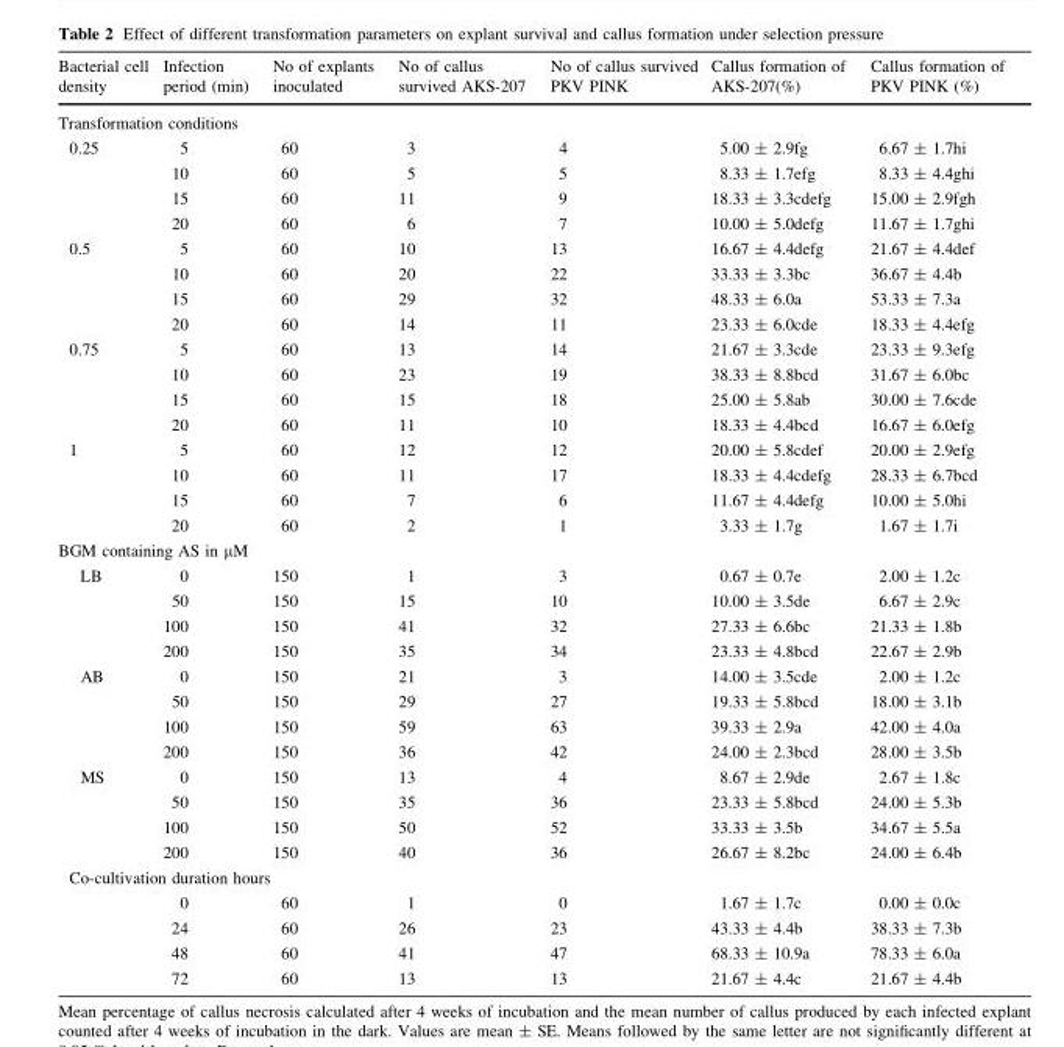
<table><thead><tr><td>Bacterial cell density</td><td>Infection period (min)</td><td>No of explants inoculated</td><td>No of callus survived AKS-207</td><td>No of callus survived PKV PINK</td><td>Callus formation of AKS-207(%)</td><td>Callus formation of PKV PINK (%)</td></tr></thead><tbody><tr><td colspan="7">Transformation conditions</td></tr><tr><td rowspan="4">0.25</td><td>5</td><td>60</td><td>3</td><td>4</td><td>5.00 ± 2.9fg</td><td>6.67 ± 1.7hi</td></tr><tr><td>10</td><td>60</td><td>5</td><td>5</td><td>8.33 ± 1.7efg</td><td>8.33 ± 4.4ghi</td></tr><tr><td>15</td><td>60</td><td>11</td><td>9</td><td>18.33 ± 3.3cdefg</td><td>15.00 ± 2.9fgh</td></tr><tr><td>20</td><td>60</td><td>6</td><td>7</td><td>10.00 ± 5.0defg</td><td>11.67 ± 1.7ghi</td></tr><tr><td rowspan="4">0.5</td><td>5</td><td>60</td><td>10</td><td>13</td><td>16.67 ± 4.4defg</td><td>21.67 ± 4.4def</td></tr><tr><td>10</td><td>60</td><td>20</td><td>22</td><td>33.33 ± 3.3bc</td><td>36.67 ± 4.4b</td></tr><tr><td>15</td><td>60</td><td>29</td><td>32</td><td>48.33 ± 6.0a</td><td>53.33 ± 7.3a</td></tr><tr><td>20</td><td>60</td><td>14</td><td>11</td><td>23.33 ± 6.0cde</td><td>18.33 ± 4.4efg</td></tr><tr><td rowspan="4">0.75</td><td>5</td><td>60</td><td>13</td><td>14</td><td>21.67 ± 3.3cde</td><td>23.33 ± 9.3efg</td></tr><tr><td>10</td><td>60</td><td>23</td><td>19</td><td>38.33 ± 8.8bcd</td><td>31.67 ± 6.0bc</td></tr><tr><td>15</td><td>60</td><td>15</td><td>18</td><td>25.00 ± 5.8ab</td><td>30.00 ± 7.6cde</td></tr><tr><td>20</td><td>60</td><td>11</td><td>10</td><td>18.33 ± 4.4bcd</td><td>16.67 ± 6.0efg</td></tr><tr><td rowspan="4">1</td><td>5</td><td>60</td><td>12</td><td>12</td><td>20.00 ± 5.8cdef</td><td>20.00 ± 2.9efg</td></tr><tr><td>10</td><td>60</td><td>11</td><td>17</td><td>18.33 ± 4.4cdefg</td><td>28.33 ± 6.7bcd</td></tr><tr><td>15</td><td>60</td><td>7</td><td>6</td><td>11.67 ± 4.4defg</td><td>10.00 ± 5.0hi</td></tr><tr><td>20</td><td>60</td><td>2</td><td>1</td><td>3.33 ± 1.7g</td><td>1.67 ± 1.7i</td></tr><tr><td colspan="7">BGM containing AS in µM</td></tr><tr><td rowspan="4">LB</td><td>0</td><td>150</td><td>1</td><td>3</td><td>0.67 ± 0.7e</td><td>2.00 ± 1.2c</td></tr><tr><td>50</td><td>150</td><td>15</td><td>10</td><td>10.00 ± 3.5de</td><td>6.67 ± 2.9c</td></tr><tr><td>100</td><td>150</td><td>41</td><td>32</td><td>27.33 ± 6.6bc</td><td>21.33 ± 1.8b</td></tr><tr><td>200</td><td>150</td><td>35</td><td>34</td><td>23.33 ± 4.8bcd</td><td>22.67 ± 2.9b</td></tr><tr><td rowspan="4">AB</td><td>0</td><td>150</td><td>21</td><td>3</td><td>14.00 ± 3.5cde</td><td>2.00 ± 1.2c</td></tr><tr><td>50</td><td>150</td><td>29</td><td>27</td><td>19.33 ± 5.8bcd</td><td>18.00 ± 3.1b</td></tr><tr><td>100</td><td>150</td><td>59</td><td>63</td><td>39.33 ± 2.9a</td><td>42.00 ± 4.0a</td></tr><tr><td>200</td><td>150</td><td>36</td><td>42</td><td>24.00 ± 2.3bcd</td><td>28.00 ± 3.5b</td></tr><tr><td rowspan="4">MS</td><td>0</td><td>150</td><td>13</td><td>4</td><td>8.67 ± 2.9de</td><td>2.67 ± 1.8c</td></tr><tr><td>50</td><td>150</td><td>35</td><td>36</td><td>23.33 ± 5.8bcd</td><td>24.00 ± 5.3b</td></tr><tr><td>100</td><td>150</td><td>50</td><td>52</td><td>33.33 ± 3.5b</td><td>34.67 ± 5.5a</td></tr><tr><td>200</td><td>150</td><td>40</td><td>36</td><td>26.67 ± 8.2bc</td><td>24.00 ± 6.4b</td></tr><tr><td colspan="7">Co-cultivation duration hours</td></tr><tr><td rowspan="4"></td><td>0</td><td>60</td><td>1</td><td>0</td><td>1.67 ± 1.7c</td><td>0.00 ± 0.0c</td></tr><tr><td>24</td><td>60</td><td>26</td><td>23</td><td>43.33 ± 4.4b</td><td>38.33 ± 7.3b</td></tr><tr><td>48</td><td>60</td><td>41</td><td>47</td><td>68.33 ± 10.9a</td><td>78.33 ± 6.0a</td></tr><tr><td>72</td><td>60</td><td>13</td><td>13</td><td>21.67 ± 4.4c</td><td>21.67 ± 4.4b</td></tr></tbody></table>